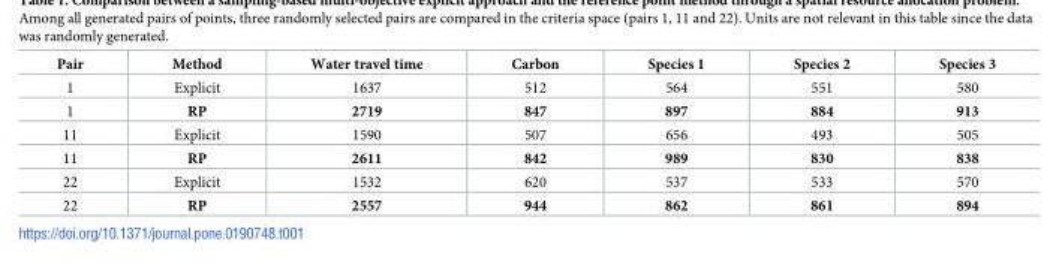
<table><thead><tr><td>Pair</td><td>Method</td><td>Water travel time</td><td>Carbon</td><td>Species 1</td><td>Species 2</td><td>Species 3</td></tr></thead><tbody><tr><td>1</td><td>Explicit</td><td>1637</td><td>512</td><td>564</td><td>551</td><td>580</td></tr><tr><td>1</td><td>RP</td><td>2719</td><td>847</td><td>897</td><td>884</td><td>913</td></tr><tr><td>11</td><td>Explicit</td><td>1590</td><td>507</td><td>656</td><td>493</td><td>505</td></tr><tr><td>11</td><td>RP</td><td>2611</td><td>842</td><td>989</td><td>830</td><td>838</td></tr><tr><td>22</td><td>Explicit</td><td>1532</td><td>620</td><td>537</td><td>533</td><td>570</td></tr><tr><td>22</td><td>RP</td><td>2557</td><td>944</td><td>862</td><td>861</td><td>894</td></tr></tbody></table>